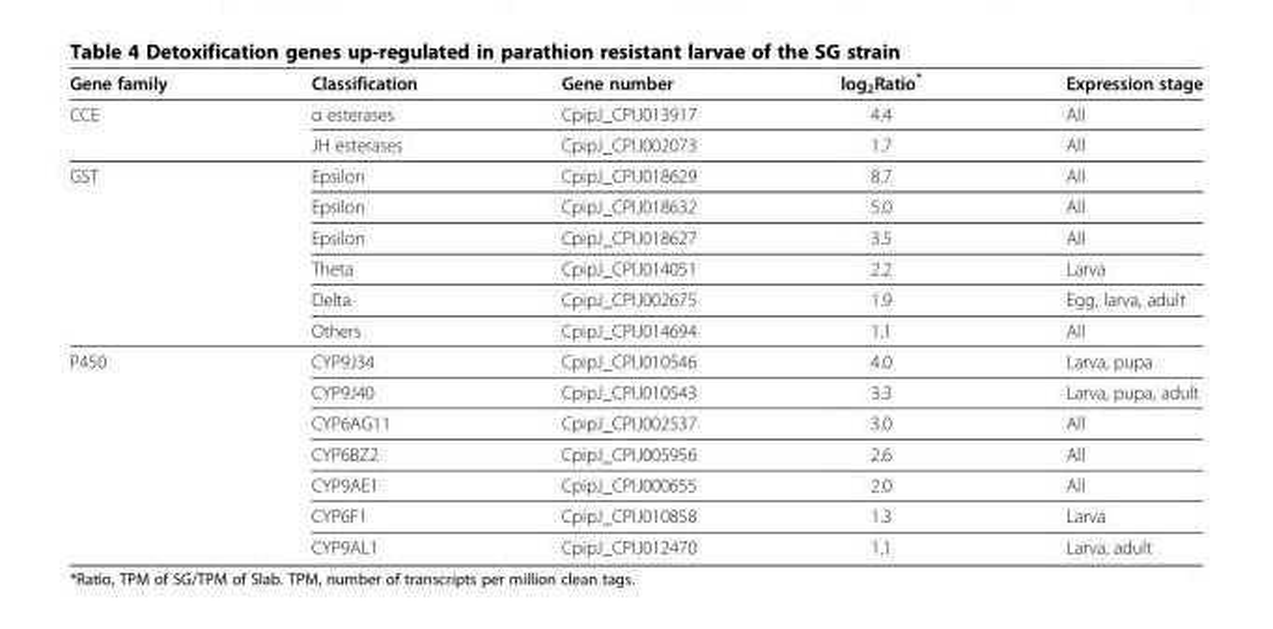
<table><thead><tr><td>Gene family</td><td>Classification</td><td>Gene number</td><td>log<sub>2</sub>Ratio*</td><td>Expression stage</td></tr></thead><tbody><tr><td rowspan="2">CCE</td><td>α esterases</td><td>CpipJ_CPIJ013917</td><td>4.4</td><td>All</td></tr><tr><td>JH esterases</td><td>CpipJ_CPIJ002073</td><td>1.7</td><td>All</td></tr><tr><td rowspan="6">GST</td><td>Epsilon</td><td>CpipJ_CPIJ018629</td><td>8.7</td><td>All</td></tr><tr><td>Epsilon</td><td>CpipJ_CPIJ018632</td><td>5.0</td><td>All</td></tr><tr><td>Epsilon</td><td>CpipJ_CPIJ018627</td><td>3.5</td><td>All</td></tr><tr><td>Theta</td><td>CpipJ_CPIJ014051</td><td>2.2</td><td>Larva</td></tr><tr><td>Delta</td><td>CpipJ_CPIJ002675</td><td>1.9</td><td>Egg, larva, adult</td></tr><tr><td>Others</td><td>CpipJ_CPIJ014694</td><td>1.1</td><td>All</td></tr><tr><td rowspan="7">P450</td><td>CYP9J34</td><td>CpipJ_CPIJ010546</td><td>4.0</td><td>Larva, pupa</td></tr><tr><td>CYP9J40</td><td>CpipJ_CPIJ010543</td><td>3.3</td><td>Larva, pupa, adult</td></tr><tr><td>CYP6AG11</td><td>CpipJ_CPIJ002537</td><td>3.0</td><td>All</td></tr><tr><td>CYP6BZ2</td><td>CpipJ_CPIJ005956</td><td>2.6</td><td>All</td></tr><tr><td>CYP9AE1</td><td>CpipJ_CPIJ000655</td><td>2.0</td><td>All</td></tr><tr><td>CYP6F1</td><td>CpipJ_CPIJ010858</td><td>1.3</td><td>Larva</td></tr><tr><td>CYP9AL1</td><td>CpipJ_CPIJ012470</td><td>1.1</td><td>Larva, adult</td></tr></tbody></table>